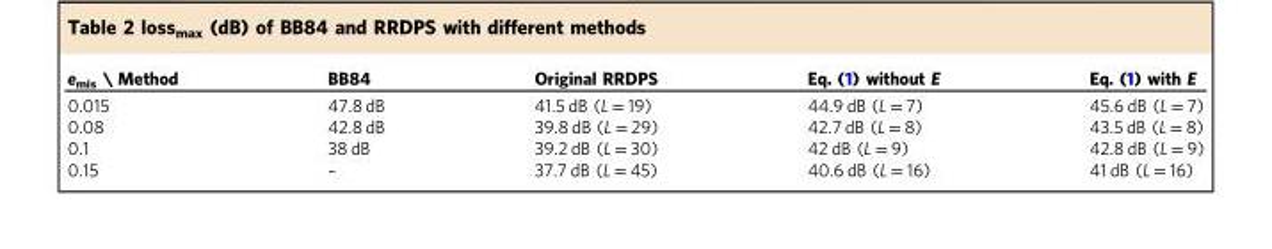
<table><thead><tr><td>e<sub>mis</sub> \ Method</td><td>BB84</td><td>Original RRDPS</td><td>Eq. (1) without E</td><td>Eq. (1) with E</td></tr></thead><tbody><tr><td>0.015</td><td>47.8 dB</td><td>41.5 dB (L = 19)</td><td>44.9 dB (L = 7)</td><td>45.6 dB (L = 7)</td></tr><tr><td>0.08</td><td>42.8 dB</td><td>39.8 dB (L = 29)</td><td>42.7 dB (L = 8)</td><td>43.5 dB (L = 8)</td></tr><tr><td>0.1</td><td>38 dB</td><td>39.2 dB (L = 30)</td><td>42 dB (L = 9)</td><td>42.8 dB (L = 9)</td></tr><tr><td>0.15</td><td>–</td><td>37.7 dB (L = 45)</td><td>40.6 dB (L = 16)</td><td>41 dB (L = 16)</td></tr></tbody></table>